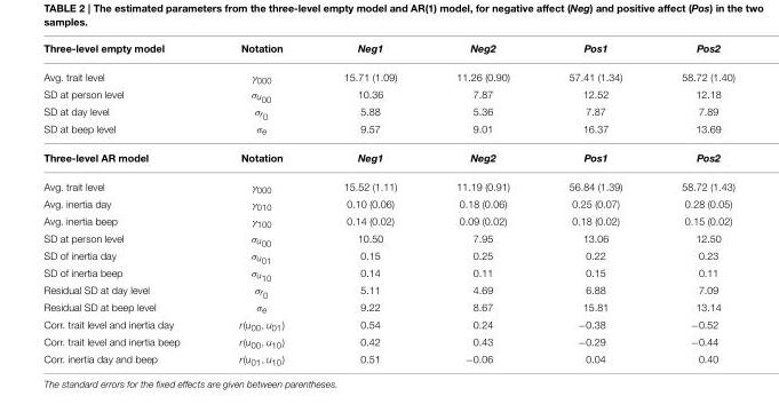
<table><thead><tr><td>Three-level empty model</td><td>Notation</td><td>Neg1</td><td>Neg2</td><td>Pos1</td><td>Pos2</td></tr></thead><tbody><tr><td>Avg. trait level</td><td>γ<sub>000</sub></td><td>15.71 (1.09)</td><td>11.26 (0.90)</td><td>57.41 (1.34)</td><td>58.72 (1.40)</td></tr><tr><td>SD at person level</td><td>σu00</td><td>10.36</td><td>7.87</td><td>12.52</td><td>12.18</td></tr><tr><td>SD at day level</td><td>σr0</td><td>5.88</td><td>5.36</td><td>7.87</td><td>7.89</td></tr><tr><td>SD at beep level</td><td>σ<sub>e</sub></td><td>9.57</td><td>9.01</td><td>16.37</td><td>13.69</td></tr><tr><td>Three-level AR model</td><td>Notation</td><td>Neg1</td><td>Neg2</td><td>Pos1</td><td>Pos2</td></tr><tr><td>Avg. trait level</td><td>γ<sub>000</sub></td><td>15.52 (1.11)</td><td>11.19 (0.91)</td><td>56.84 (1.39)</td><td>58.72 (1.43)</td></tr><tr><td>Avg. inertia day</td><td>γ<sub>010</sub></td><td>0.10 (0.06)</td><td>0.18 (0.06)</td><td>0.25 (0.07)</td><td>0.28 (0.05)</td></tr><tr><td>Avg. inertia beep</td><td>γ<sub>100</sub></td><td>0.14 (0.02)</td><td>0.09 (0.02)</td><td>0.18 (0.02)</td><td>0.15 (0.02)</td></tr><tr><td>SD at person level</td><td>σu00</td><td>10.50</td><td>7.95</td><td>13.06</td><td>12.50</td></tr><tr><td>SD of inertia day</td><td>σu01</td><td>0.15</td><td>0.25</td><td>0.22</td><td>0.23</td></tr><tr><td>SD of inertia beep</td><td>σu10</td><td>0.14</td><td>0.11</td><td>0.15</td><td>0.11</td></tr><tr><td>Residual SD at day level</td><td>σr0</td><td>5.11</td><td>4.69</td><td>6.88</td><td>7.09</td></tr><tr><td>Residual SD at beep level</td><td>σ<sub>e</sub></td><td>9.22</td><td>8.67</td><td>15.81</td><td>13.14</td></tr><tr><td>Corr. trait level and inertia day</td><td>r(u<sub>00</sub>, u<sub>01</sub>)</td><td>0.54</td><td>0.24</td><td>−0.38</td><td>−0.52</td></tr><tr><td>Corr. trait level and inertia beep</td><td>r(u<sub>00</sub>, u<sub>10</sub>)</td><td>0.42</td><td>0.43</td><td>−0.29</td><td>−0.44</td></tr><tr><td>Corr. inertia day and beep</td><td>r(u<sub>01</sub>, u<sub>10</sub>)</td><td>0.51</td><td>−0.06</td><td>0.04</td><td>0.40</td></tr></tbody></table>